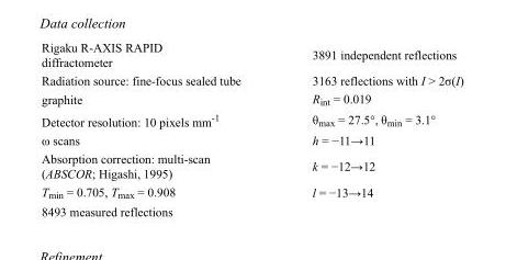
<table><tbody><tr><td>Rigaku R-AXIS RAPID diffractometer</td><td>3891 independent reflections</td></tr><tr><td>Radiation source: fine-focus sealed tube</td><td>3163 reflections with I &gt; 2σ(I)</td></tr><tr><td>graphite</td><td>R<sub>int</sub> = 0.019</td></tr><tr><td>Detector resolution: 10 pixels mm<sup>-1</sup></td><td>θ<sub>max</sub> = 27.5°, θ<sub>min</sub> = 3.1°</td></tr><tr><td>ω scans</td><td>h = −11→11</td></tr><tr><td>Absorption correction: multi-scan (ABSCOR; Higashi, 1995)</td><td>k = −12→12</td></tr><tr><td>T<sub>min</sub> = 0.705, T<sub>max</sub> = 0.908</td><td>l = −13→14</td></tr><tr><td>8493 measured reflections</td><td></td></tr></tbody></table>